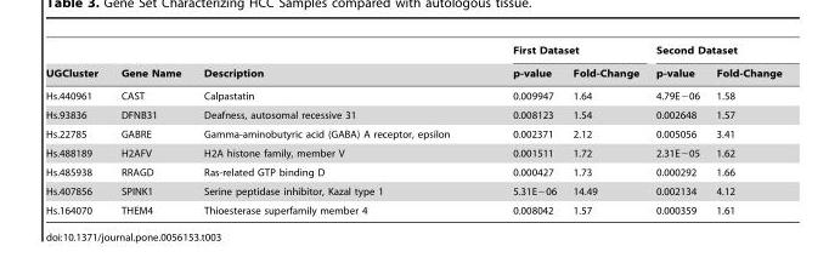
<table><thead><tr><td rowspan="2">UGCluster</td><td rowspan="2">Gene Name</td><td rowspan="2">Description</td><td colspan="2">First Dataset</td><td colspan="2">Second Dataset</td></tr><tr><td>p-value</td><td>Fold-Change</td><td>p-value</td><td>Fold-Change</td></tr></thead><tbody><tr><td>Hs.440961</td><td>CAST</td><td>Calpastatin</td><td>0.009947</td><td>1.64</td><td>4.79E−06</td><td>1.58</td></tr><tr><td>Hs.93836</td><td>DFNB31</td><td>Deafness, autosomal recessive 31</td><td>0.008123</td><td>1.54</td><td>0.002648</td><td>1.57</td></tr><tr><td>Hs.22785</td><td>GABRE</td><td>Gamma-aminobutyric acid (GABA) A receptor, epsilon</td><td>0.002371</td><td>2.12</td><td>0.005056</td><td>3.41</td></tr><tr><td>Hs.488189</td><td>H2AFV</td><td>H2A histone family, member V</td><td>0.001511</td><td>1.72</td><td>2.31E−05</td><td>1.62</td></tr><tr><td>Hs.485938</td><td>RRAGD</td><td>Ras-related GTP binding D</td><td>0.000427</td><td>1.73</td><td>0.000292</td><td>1.66</td></tr><tr><td>Hs.407856</td><td>SPINK1</td><td>Serine peptidase inhibitor, Kazal type 1</td><td>5.31E−06</td><td>14.49</td><td>0.002134</td><td>4.12</td></tr><tr><td>Hs.164070</td><td>THEM4</td><td>Thioesterase superfamily member 4</td><td>0.008042</td><td>1.57</td><td>0.000359</td><td>1.61</td></tr></tbody></table>